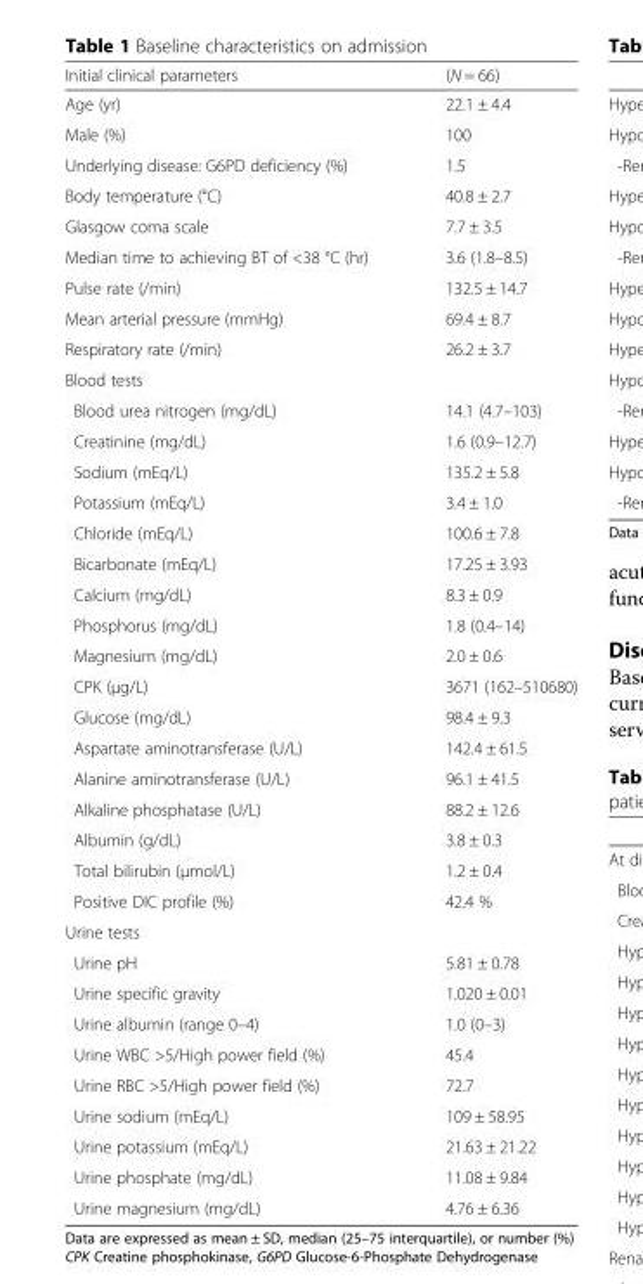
<table><thead><tr><td>Initial clinical parameters</td><td>(N = 66)</td></tr></thead><tbody><tr><td>Age (yr)</td><td>22.1 ± 4.4</td></tr><tr><td>Male (%)</td><td>100</td></tr><tr><td>Underlying disease: G6PD deficiency (%)</td><td>1.5</td></tr><tr><td>Body temperature (°C)</td><td>40.8 ± 2.7</td></tr><tr><td>Glasgow coma scale</td><td>7.7 ± 3.5</td></tr><tr><td>Median time to achieving BT of &lt;38 °C (hr)</td><td>3.6 (1.8–8.5)</td></tr><tr><td>Pulse rate (/min)</td><td>132.5 ± 14.7</td></tr><tr><td>Mean arterial pressure (mmHg)</td><td>69.4 ± 8.7</td></tr><tr><td>Respiratory rate (/min)</td><td>26.2 ± 3.7</td></tr><tr><td colspan="2">Blood tests</td></tr><tr><td>Blood urea nitrogen (mg/dL)</td><td>14.1 (4.7–103)</td></tr><tr><td>Creatinine (mg/dL)</td><td>1.6 (0.9–12.7)</td></tr><tr><td>Sodium (mEq/L)</td><td>135.2 ± 5.8</td></tr><tr><td>Potassium (mEq/L)</td><td>3.4 ± 1.0</td></tr><tr><td>Chloride (mEq/L)</td><td>100.6 ± 7.8</td></tr><tr><td>Bicarbonate (mEq/L)</td><td>17.25 ± 3.93</td></tr><tr><td>Calcium (mg/dL)</td><td>8.3 ± 0.9</td></tr><tr><td>Phosphorus (mg/dL)</td><td>1.8 (0.4–14)</td></tr><tr><td>Magnesium (mg/dL)</td><td>2.0 ± 0.6</td></tr><tr><td>CPK (μg/L)</td><td>3671 (162–510680)</td></tr><tr><td>Glucose (mg/dL)</td><td>98.4 ± 9.3</td></tr><tr><td>Aspartate aminotransferase (U/L)</td><td>142.4 ± 61.5</td></tr><tr><td>Alanine aminotransferase (U/L)</td><td>96.1 ± 41.5</td></tr><tr><td>Alkaline phosphatase (U/L)</td><td>88.2 ± 12.6</td></tr><tr><td>Albumin (g/dL)</td><td>3.8 ± 0.3</td></tr><tr><td>Total bilirubin (μmol/L)</td><td>1.2 ± 0.4</td></tr><tr><td>Positive DIC profile (%)</td><td>42.4 %</td></tr><tr><td colspan="2">Urine tests</td></tr><tr><td>Urine pH</td><td>5.81 ± 0.78</td></tr><tr><td>Urine specific gravity</td><td>1.020 ± 0.01</td></tr><tr><td>Urine albumin (range 0–4)</td><td>1.0 (0–3)</td></tr><tr><td>Urine WBC &gt;5/High power field (%)</td><td>45.4</td></tr><tr><td>Urine RBC &gt;5/High power field (%)</td><td>72.7</td></tr><tr><td>Urine sodium (mEq/L)</td><td>109 ± 58.95</td></tr><tr><td>Urine potassium (mEq/L)</td><td>21.63 ± 21.22</td></tr><tr><td>Urine phosphate (mg/dL)</td><td>11.08 ± 9.84</td></tr><tr><td>Urine magnesium (mg/dL)</td><td>4.76 ± 6.36</td></tr></tbody></table>